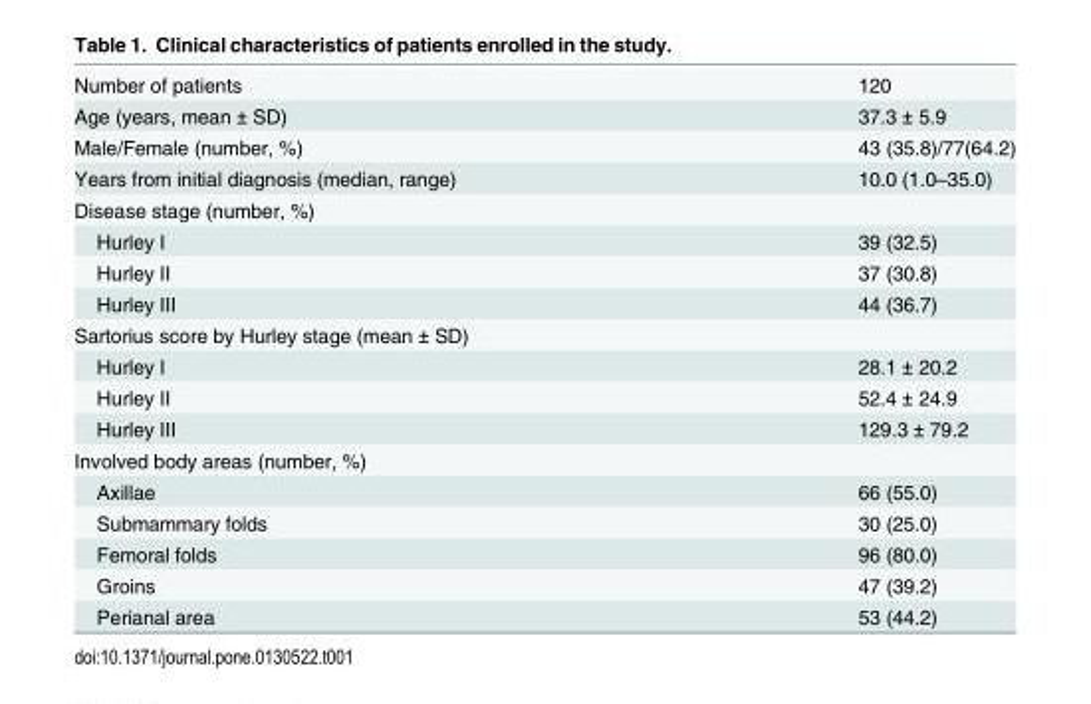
<table><tbody><tr><td>Number of patients</td><td>120</td></tr><tr><td>Age (years, mean ± SD)</td><td>37.3 ± 5.9</td></tr><tr><td>Male/Female (number, %)</td><td>43 (35.8)/77(64.2)</td></tr><tr><td>Years from initial diagnosis (median, range)</td><td>10.0 (1.0–35.0)</td></tr><tr><td colspan="2">Disease stage (number, %)</td></tr><tr><td>Hurley I</td><td>39 (32.5)</td></tr><tr><td>Hurley II</td><td>37 (30.8)</td></tr><tr><td>Hurley III</td><td>44 (36.7)</td></tr><tr><td colspan="2">Sartorius score by Hurley stage (mean ± SD)</td></tr><tr><td>Hurley I</td><td>28.1 ± 20.2</td></tr><tr><td>Hurley II</td><td>52.4 ± 24.9</td></tr><tr><td>Hurley III</td><td>129.3 ± 79.2</td></tr><tr><td colspan="2">Involved body areas (number, %)</td></tr><tr><td>Axillae</td><td>66 (55.0)</td></tr><tr><td>Submammary folds</td><td>30 (25.0)</td></tr><tr><td>Femoral folds</td><td>96 (80.0)</td></tr><tr><td>Groins</td><td>47 (39.2)</td></tr><tr><td>Perianal area</td><td>53 (44.2)</td></tr></tbody></table>